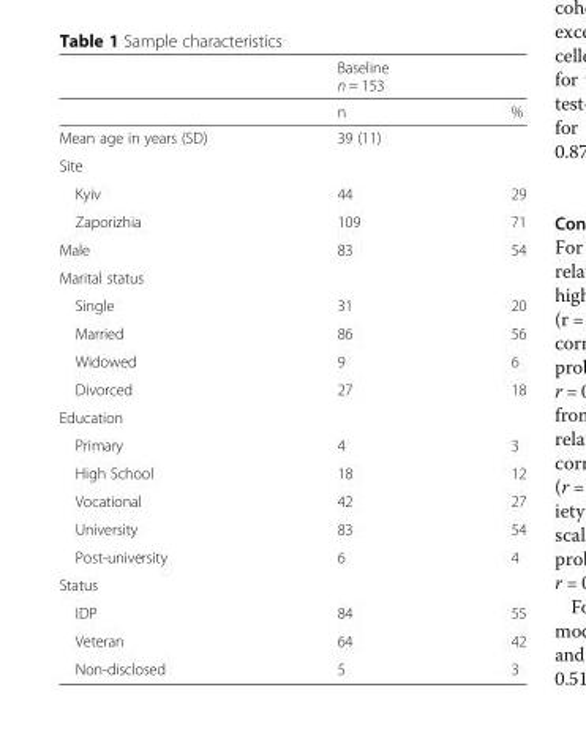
<table><thead><tr><td rowspan="3"></td><td rowspan="2" colspan="2">Baseline n = 153</td></tr><tr></tr><tr><td>n</td><td>%</td></tr></thead><tbody><tr><td>Mean age in years (SD)</td><td>39 (11)</td><td></td></tr><tr><td colspan="3">Site</td></tr><tr><td>Kyiv</td><td>44</td><td>29</td></tr><tr><td>Zaporizhia</td><td>109</td><td>71</td></tr><tr><td>Male</td><td>83</td><td>54</td></tr><tr><td colspan="3">Marital status</td></tr><tr><td>Single</td><td>31</td><td>20</td></tr><tr><td>Married</td><td>86</td><td>56</td></tr><tr><td>Widowed</td><td>9</td><td>6</td></tr><tr><td>Divorced</td><td>27</td><td>18</td></tr><tr><td colspan="3">Education</td></tr><tr><td>Primary</td><td>4</td><td>3</td></tr><tr><td>High School</td><td>18</td><td>12</td></tr><tr><td>Vocational</td><td>42</td><td>27</td></tr><tr><td>University</td><td>83</td><td>54</td></tr><tr><td>Post-university</td><td>6</td><td>4</td></tr><tr><td colspan="3">Status</td></tr><tr><td>IDP</td><td>84</td><td>55</td></tr><tr><td>Veteran</td><td>64</td><td>42</td></tr><tr><td>Non-disclosed</td><td>5</td><td>3</td></tr></tbody></table>